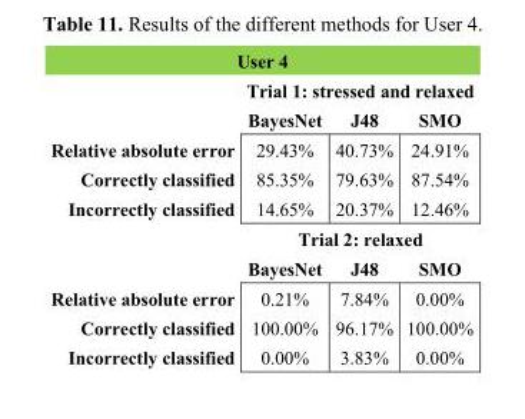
<table><thead><tr><td colspan="4">User 4</td></tr><tr><td rowspan="2"></td><td colspan="3">Trial 1: stressed and relaxed</td></tr><tr><td>BayesNet</td><td>J48</td><td>SMO</td></tr></thead><tbody><tr><td>Relative absolute error</td><td>29.43%</td><td>40.73%</td><td>24.91%</td></tr><tr><td>Correctly classified</td><td>85.35%</td><td>79.63%</td><td>87.54%</td></tr><tr><td rowspan="3">Incorrectly classified</td><td>14.65%</td><td>20.37%</td><td>12.46%</td></tr><tr><td colspan="3">Trial 2: relaxed</td></tr><tr><td>BayesNet</td><td>J48</td><td>SMO</td></tr><tr><td>Relative absolute error</td><td>0.21%</td><td>7.84%</td><td>0.00%</td></tr><tr><td>Correctly classified</td><td>100.00%</td><td>96.17%</td><td>100.00%</td></tr><tr><td>Incorrectly classified</td><td>0.00%</td><td>3.83%</td><td>0.00%</td></tr></tbody></table>